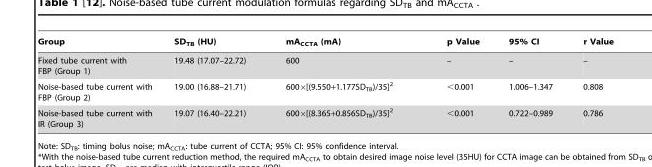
<table><thead><tr><td>Group</td><td>SD<sub>TB</sub> (HU)</td><td>mA<sub>CCTA</sub> (mA)</td><td>p Value</td><td>95% CI</td><td>r Value</td></tr></thead><tbody><tr><td>Fixed tube current with FBP (Group 1)</td><td>19.48 (17.07–22.72)</td><td>600</td><td>–</td><td>–</td><td>–</td></tr><tr><td>Noise-based tube current with FBP (Group 2)</td><td>19.00 (16.88–21.71)</td><td>600×[(9.550+1.177SD<sub>TB</sub>)/35]<sup>2</sup></td><td>&lt;0.001</td><td>1.006–1.347</td><td>0.808</td></tr><tr><td>Noise-based tube current with IR (Group 3)</td><td>19.07 (16.40–22.21)</td><td>600×[(8.365+0.856SD<sub>TB</sub>)/35]<sup>2</sup></td><td>&lt;0.001</td><td>0.722–0.989</td><td>0.786</td></tr></tbody></table>